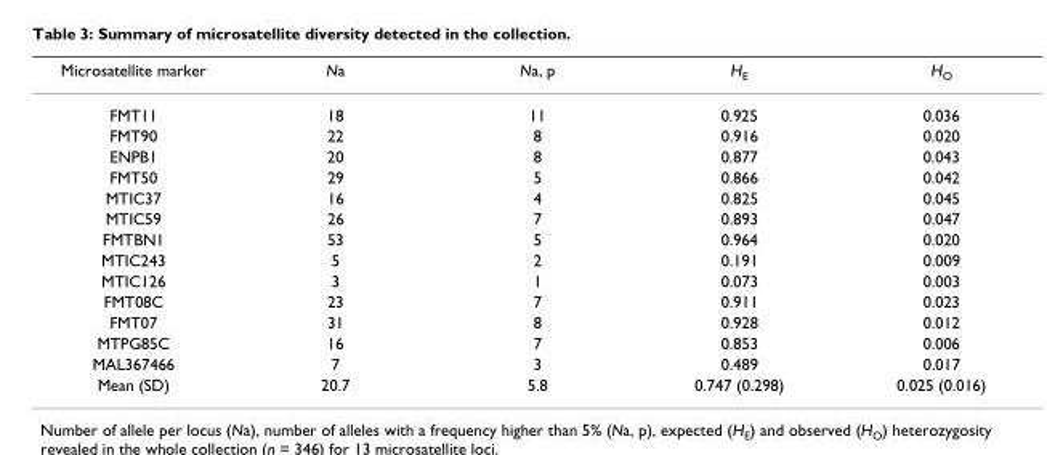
<table><thead><tr><td>Microsatellite marker</td><td>Na</td><td>Na, p</td><td>HE</td><td>HO</td></tr></thead><tbody><tr><td>FMT11</td><td>18</td><td>11</td><td>0.925</td><td>0.036</td></tr><tr><td>FMT90</td><td>22</td><td>8</td><td>0.916</td><td>0.020</td></tr><tr><td>ENPB1</td><td>20</td><td>8</td><td>0.877</td><td>0.043</td></tr><tr><td>FMT50</td><td>29</td><td>5</td><td>0.866</td><td>0.042</td></tr><tr><td>MTIC37</td><td>16</td><td>4</td><td>0.825</td><td>0.045</td></tr><tr><td>MTIC59</td><td>26</td><td>7</td><td>0.893</td><td>0.047</td></tr><tr><td>FMTBN1</td><td>53</td><td>5</td><td>0.964</td><td>0.020</td></tr><tr><td>MTIC243</td><td>5</td><td>2</td><td>0.191</td><td>0.009</td></tr><tr><td>MTIC126</td><td>3</td><td>1</td><td>0.073</td><td>0.003</td></tr><tr><td>FMT08C</td><td>23</td><td>7</td><td>0.911</td><td>0.023</td></tr><tr><td>FMT07</td><td>31</td><td>8</td><td>0.928</td><td>0.012</td></tr><tr><td>MTPG85C</td><td>16</td><td>7</td><td>0.853</td><td>0.006</td></tr><tr><td>MAL367466</td><td>7</td><td>3</td><td>0.489</td><td>0.017</td></tr><tr><td>Mean (SD)</td><td>20.7</td><td>5.8</td><td>0.747 (0.298)</td><td>0.025 (0.016)</td></tr></tbody></table>